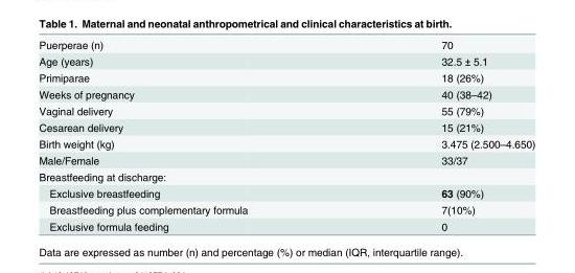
<table><tbody><tr><td>Puerperae (n)</td><td>70</td></tr><tr><td>Age (years)</td><td>32.5 ± 5.1</td></tr><tr><td>Primiparae</td><td>18 (26%)</td></tr><tr><td>Weeks of pregnancy</td><td>40 (38–42)</td></tr><tr><td>Vaginal delivery</td><td>55 (79%)</td></tr><tr><td>Cesarean delivery</td><td>15 (21%)</td></tr><tr><td>Birth weight (kg)</td><td>3.475 (2.500–4.650)</td></tr><tr><td>Male/Female</td><td>33/37</td></tr><tr><td colspan="2">Breastfeeding at discharge:</td></tr><tr><td>Exclusive breastfeeding</td><td>63 (90%)</td></tr><tr><td>Breastfeeding plus complementary formula</td><td>7(10%)</td></tr><tr><td>Exclusive formula feeding</td><td>0</td></tr></tbody></table>